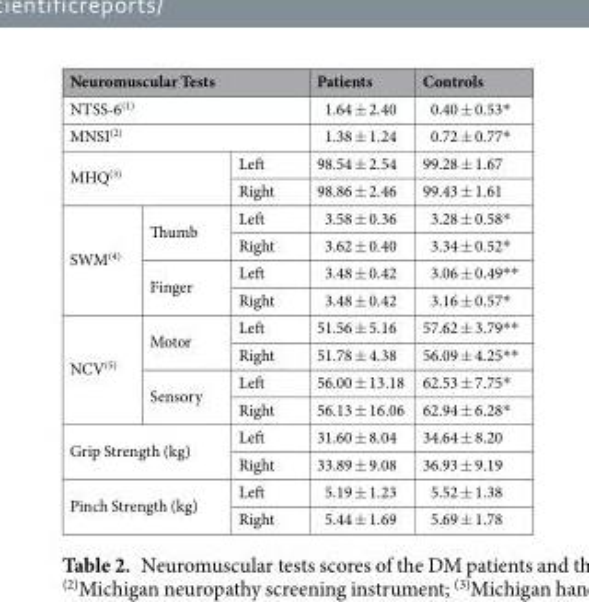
<table><thead><tr><td colspan="3">Neuromuscular Tests</td><td>Patients</td><td>Controls</td></tr></thead><tbody><tr><td colspan="3">NTSS-6<sup>(1)</sup></td><td>1.64 ± 2.40</td><td>0.40 ± 0.53*</td></tr><tr><td colspan="3">MNSI<sup>(2)</sup></td><td>1.38 ± 1.24</td><td>0.72 ± 0.77*</td></tr><tr><td rowspan="2" colspan="2">MHQ<sup>(3)</sup></td><td>Left</td><td>98.54 ± 2.54</td><td>99.28 ± 1.67</td></tr><tr><td>Right</td><td>98.86 ± 2.46</td><td>99.43 ± 1.61</td></tr><tr><td rowspan="4">SWM<sup>(4)</sup></td><td rowspan="2">Thumb</td><td>Left</td><td>3.58 ± 0.36</td><td>3.28 ± 0.58*</td></tr><tr><td>Right</td><td>3.62 ± 0.40</td><td>3.34 ± 0.52*</td></tr><tr><td rowspan="2">Finger</td><td>Left</td><td>3.48 ± 0.42</td><td>3.06 ± 0.49**</td></tr><tr><td>Right</td><td>3.48 ± 0.42</td><td>3.16 ± 0.57*</td></tr><tr><td rowspan="4">NCV<sup>(5)</sup></td><td rowspan="2">Motor</td><td>Left</td><td>51.56 ± 5.16</td><td>57.62 ± 3.79**</td></tr><tr><td>Right</td><td>51.78 ± 4.38</td><td>56.09 ± 4.25**</td></tr><tr><td rowspan="2">Sensory</td><td>Left</td><td>56.00 ± 13.18</td><td>62.53 ± 7.75*</td></tr><tr><td>Right</td><td>56.13 ± 16.06</td><td>62.94 ± 6.28*</td></tr><tr><td rowspan="2" colspan="2">Grip Strength (kg)</td><td>Left</td><td>31.60 ± 8.04</td><td>34.64 ± 8.20</td></tr><tr><td>Right</td><td>33.89 ± 9.08</td><td>36.93 ± 9.19</td></tr><tr><td rowspan="2" colspan="2">Pinch Strength (kg)</td><td>Left</td><td>5.19 ± 1.23</td><td>5.52 ± 1.38</td></tr><tr><td>Right</td><td>5.44 ± 1.69</td><td>5.69 ± 1.78</td></tr></tbody></table>